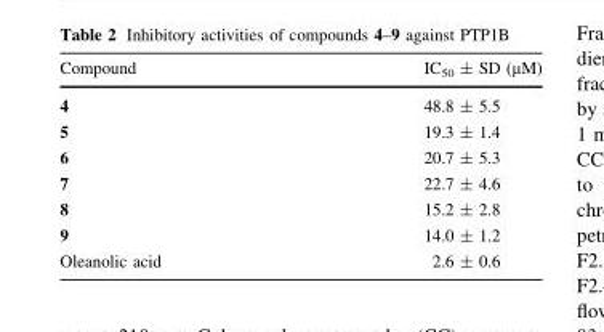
<table><thead><tr><td>Compound</td><td>IC<sub>50</sub> ± SD (µM)</td></tr></thead><tbody><tr><td>4</td><td>48.8 ± 5.5</td></tr><tr><td>5</td><td>19.3 ± 1.4</td></tr><tr><td>6</td><td>20.7 ± 5.3</td></tr><tr><td>7</td><td>22.7 ± 4.6</td></tr><tr><td>8</td><td>15.2 ± 2.8</td></tr><tr><td>9</td><td>14.0 ± 1.2</td></tr><tr><td>Oleanolic acid</td><td>2.6 ± 0.6</td></tr></tbody></table>